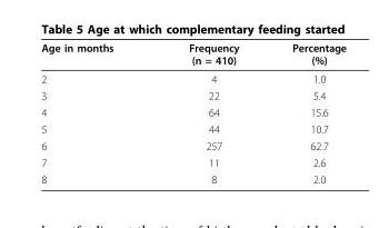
<table><thead><tr><td>Age in months</td><td>Frequency (n = 410)</td><td>Percentage (%)</td></tr></thead><tbody><tr><td>2</td><td>4</td><td>1.0</td></tr><tr><td>3</td><td>22</td><td>5.4</td></tr><tr><td>4</td><td>64</td><td>15.6</td></tr><tr><td>5</td><td>44</td><td>10.7</td></tr><tr><td>6</td><td>257</td><td>62.7</td></tr><tr><td>7</td><td>11</td><td>2.6</td></tr><tr><td>8</td><td>8</td><td>2.0</td></tr></tbody></table>